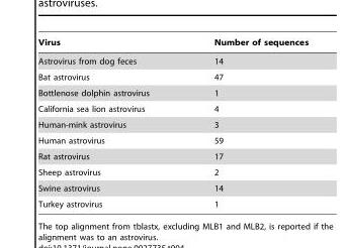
<table><thead><tr><td>Virus</td><td>Number of sequences</td></tr></thead><tbody><tr><td>Astrovirus from dog feces</td><td>14</td></tr><tr><td>Bat astrovirus</td><td>47</td></tr><tr><td>Bottlenose dolphin astrovirus</td><td>1</td></tr><tr><td>California sea lion astrovirus</td><td>4</td></tr><tr><td>Human-mink astrovirus</td><td>3</td></tr><tr><td>Human astrovirus</td><td>59</td></tr><tr><td>Rat astrovirus</td><td>17</td></tr><tr><td>Sheep astrovirus</td><td>2</td></tr><tr><td>Swine astrovirus</td><td>14</td></tr><tr><td>Turkey astrovirus</td><td>1</td></tr></tbody></table>